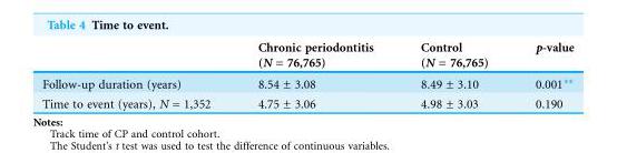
<table><thead><tr><td></td><td>Chronic periodontitis (N = 76,765)</td><td>Control (N = 76,765)</td><td>p-value</td></tr></thead><tbody><tr><td>Follow-up duration (years)</td><td>8.54 ± 3.08</td><td>8.49 ± 3.10</td><td>0.001**</td></tr><tr><td>Time to event (years), N = 1,352</td><td>4.75 ± 3.06</td><td>4.98 ± 3.03</td><td>0.190</td></tr></tbody></table>